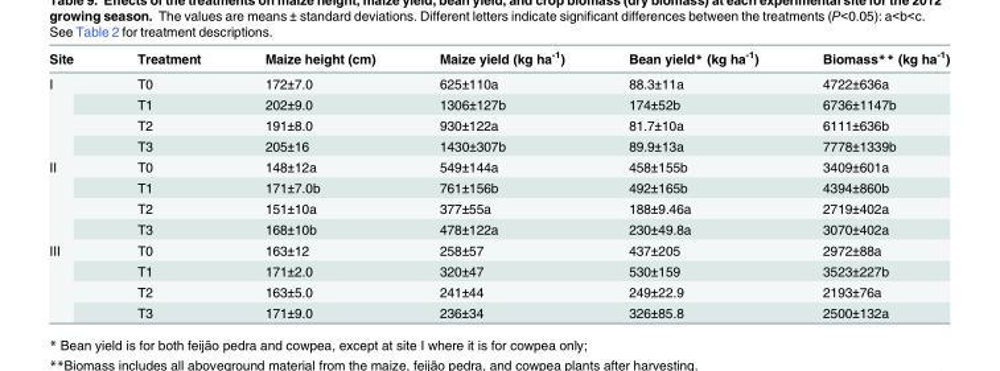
<table><thead><tr><td>Site</td><td>Treatment</td><td>Maize height (cm)</td><td>Maize yield (kg ha<sup>-1</sup>)</td><td>Bean yield* (kg ha<sup>-1</sup>)</td><td>Biomass** (kg ha<sup>-1</sup>)</td></tr></thead><tbody><tr><td rowspan="4">I</td><td>T0</td><td>172±7.0</td><td>625±110a</td><td>88.3±11a</td><td>4722±636a</td></tr><tr><td>T1</td><td>202±9.0</td><td>1306±127b</td><td>174±52b</td><td>6736±1147b</td></tr><tr><td>T2</td><td>191±8.0</td><td>930±122a</td><td>81.7±10a</td><td>6111±636b</td></tr><tr><td>T3</td><td>205±16</td><td>1430±307b</td><td>89.9±13a</td><td>7778±1339b</td></tr><tr><td rowspan="4">II</td><td>T0</td><td>148±12a</td><td>549±144a</td><td>458±155b</td><td>3409±601a</td></tr><tr><td>T1</td><td>171±7.0b</td><td>761±156b</td><td>492±165b</td><td>4394±860b</td></tr><tr><td>T2</td><td>151±10a</td><td>377±55a</td><td>188±9.46a</td><td>2719±402a</td></tr><tr><td>T3</td><td>168±10b</td><td>478±122a</td><td>230±49.8a</td><td>3070±402a</td></tr><tr><td rowspan="4">III</td><td>T0</td><td>163±12</td><td>258±57</td><td>437±205</td><td>2972±88a</td></tr><tr><td>T1</td><td>171±2.0</td><td>320±47</td><td>530±159</td><td>3523±227b</td></tr><tr><td>T2</td><td>163±5.0</td><td>241±44</td><td>249±22.9</td><td>2193±76a</td></tr><tr><td>T3</td><td>171±9.0</td><td>236±34</td><td>326±85.8</td><td>2500±132a</td></tr></tbody></table>